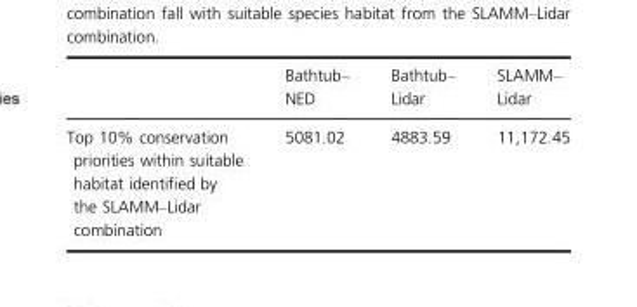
<table><thead><tr><td></td><td>Bathtub– NED</td><td>Bathtub– Lidar</td><td>SLAMM– Lidar</td></tr></thead><tbody><tr><td>Top 10% conservation priorities within suitable habitat identified by the SLAMM–Lidar combination</td><td>5081.02</td><td>4883.59</td><td>11,172.45</td></tr></tbody></table>